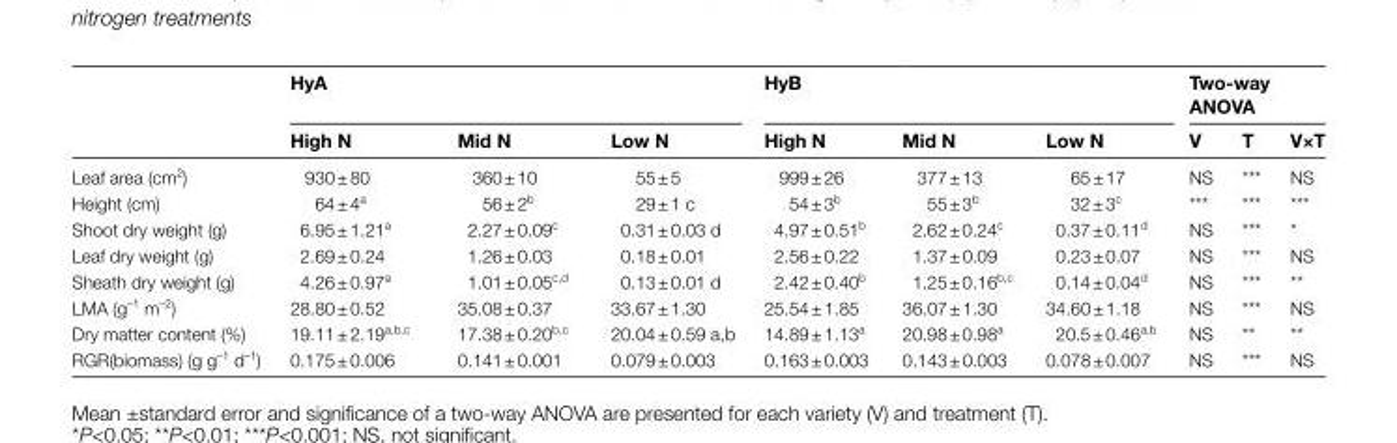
<table><thead><tr><td rowspan="2"></td><td colspan="3">HyA</td><td colspan="3">HyB</td><td colspan="3">Two-way ANOVA</td></tr><tr><td>High N</td><td>Mid N</td><td>Low N</td><td>High N</td><td>Mid N</td><td>Low N</td><td>V</td><td>T</td><td>V×T</td></tr></thead><tbody><tr><td>Leaf area (cm<sup>2</sup>)</td><td>930 ± 80</td><td>360 ± 10</td><td>55 ± 5</td><td>999 ± 26</td><td>377 ± 13</td><td>65 ± 17</td><td>NS</td><td>***</td><td>NS</td></tr><tr><td>Height (cm)</td><td>64 ± 4a</td><td>56 ± 2b</td><td>29 ± 1 c</td><td>54 ± 3b</td><td>55 ± 3b</td><td>32 ± 3c</td><td>***</td><td>***</td><td>***</td></tr><tr><td>Shoot dry weight (g)</td><td>6.95 ± 1.21a</td><td>2.27 ± 0.09c</td><td>0.31 ± 0.03 d</td><td>4.97 ± 0.51b</td><td>2.62 ± 0.24c</td><td>0.37 ± 0.11d</td><td>NS</td><td>***</td><td>*</td></tr><tr><td>Leaf dry weight (g)</td><td>2.69 ± 0.24</td><td>1.26 ± 0.03</td><td>0.18 ± 0.01</td><td>2.56 ± 0.22</td><td>1.37 ± 0.09</td><td>0.23 ± 0.07</td><td>NS</td><td>***</td><td>NS</td></tr><tr><td>Sheath dry weight (g)</td><td>4.26 ± 0.97a</td><td>1.01 ± 0.05c,d</td><td>0.13 ± 0.01 d</td><td>2.42 ± 0.40b</td><td>1.25 ± 0.16b,c</td><td>0.14 ± 0.04d</td><td>NS</td><td>***</td><td>**</td></tr><tr><td>LMA (g<sup>–1</sup> m<sup>–2</sup>)</td><td>28.80 ± 0.52</td><td>35.08 ± 0.37</td><td>33.67 ± 1.30</td><td>25.54 ± 1.85</td><td>36.07 ± 1.30</td><td>34.60 ± 1.18</td><td>NS</td><td>***</td><td>NS</td></tr><tr><td>Dry matter content (%)</td><td>19.11 ± 2.19a,b,c</td><td>17.38 ± 0.20b,c</td><td>20.04 ± 0.59 a,b</td><td>14.89 ± 1.13a</td><td>20.98 ± 0.98a</td><td>20.5 ± 0.46a,b</td><td>NS</td><td>**</td><td>**</td></tr><tr><td>RGR(biomass) (g g<sup>–1</sup> d<sup>–1</sup>)</td><td>0.175 ± 0.006</td><td>0.141 ± 0.001</td><td>0.079 ± 0.003</td><td>0.163 ± 0.003</td><td>0.143 ± 0.003</td><td>0.078 ± 0.007</td><td>NS</td><td>***</td><td>NS</td></tr></tbody></table>